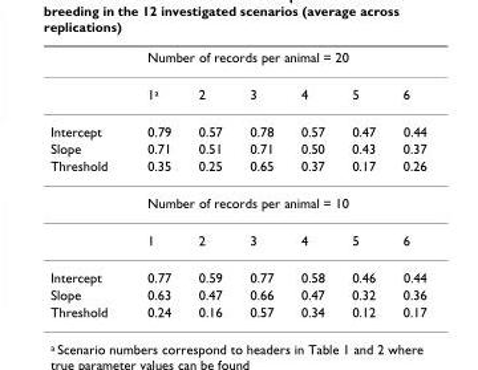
<table><thead><tr><td rowspan="2"></td><td colspan="6">Number of records per animal = 20</td></tr><tr><td>1<sup>a</sup></td><td>2</td><td>3</td><td>4</td><td>5</td><td>6</td></tr></thead><tbody><tr><td>Intercept</td><td>0.79</td><td>0.57</td><td>0.78</td><td>0.57</td><td>0.47</td><td>0.44</td></tr><tr><td>Slope</td><td>0.71</td><td>0.51</td><td>0.71</td><td>0.50</td><td>0.43</td><td>0.37</td></tr><tr><td rowspan="3">Threshold</td><td>0.35</td><td>0.25</td><td>0.65</td><td>0.37</td><td>0.17</td><td>0.26</td></tr><tr><td colspan="6">Number of records per animal = 10</td></tr><tr><td>1</td><td>2</td><td>3</td><td>4</td><td>5</td><td>6</td></tr><tr><td>Intercept</td><td>0.77</td><td>0.59</td><td>0.77</td><td>0.58</td><td>0.46</td><td>0.44</td></tr><tr><td>Slope</td><td>0.63</td><td>0.47</td><td>0.66</td><td>0.47</td><td>0.32</td><td>0.36</td></tr><tr><td>Threshold</td><td>0.24</td><td>0.16</td><td>0.57</td><td>0.34</td><td>0.12</td><td>0.17</td></tr></tbody></table>